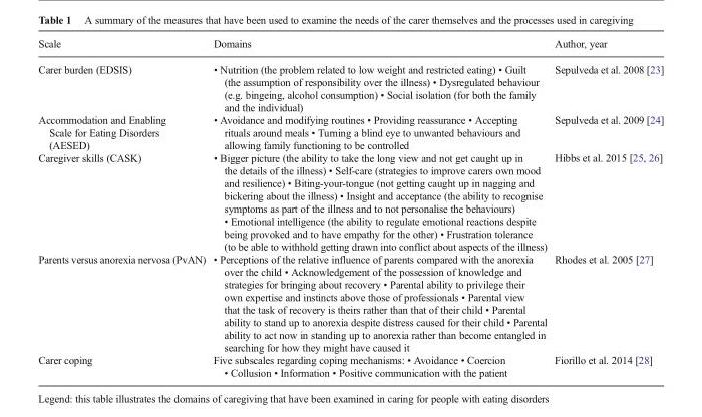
<table><thead><tr><td>Scale</td><td>Domains</td><td>Author, year</td></tr></thead><tbody><tr><td>Carer burden (EDSIS)</td><td>• Nutrition (the problem related to low weight and restricted eating) • Guilt (the assumption of responsibility over the illness) • Dysregulated behaviour (e.g. bingeing, alcohol consumption) • Social isolation (for both the family and the individual)</td><td>Sepulveda et al. 2008 [23]</td></tr><tr><td>Accommodation and Enabling Scale for Eating Disorders (AESED)</td><td>• Avoidance and modifying routines • Providing reassurance • Accepting rituals around meals • Turning a blind eye to unwanted behaviours and allowing family functioning to be controlled</td><td>Sepulveda et al. 2009 [24]</td></tr><tr><td>Caregiver skills (CASK)</td><td>• Bigger picture (the ability to take the long view and not get caught up in the details of the illness) • Self-care (strategies to improve carers own mood and resilience) • Biting-your-tongue (not getting caught up in nagging and bickering about the illness) • Insight and acceptance (the ability to recognise symptoms as part of the illness and to not personalise the behaviours) • Emotional intelligence (the ability to regulate emotional reactions despite being provoked and to have empathy for the other) • Frustration tolerance (to be able to withhold getting drawn into conflict about aspects of the illness)</td><td>Hibbs et al. 2015 [25, 26]</td></tr><tr><td>Parents versus anorexia nervosa (PvAN)</td><td>• Perceptions of the relative influence of parents compared with the anorexia over the child • Acknowledgement of the possession of knowledge and strategies for bringing about recovery • Parental ability to privilege their own expertise and instincts above those of professionals • Parental view that the task of recovery is theirs rather than that of their child • Parental ability to stand up to anorexia despite distress caused for their child • Parental ability to act now in standing up to anorexia rather than become entangled in searching for how they might have caused it</td><td>Rhodes et al. 2005 [27]</td></tr><tr><td>Carer coping</td><td>Five subscales regarding coping mechanisms: • Avoidance • Coercion • Collusion • Information • Positive communication with the patient</td><td>Fiorillo et al. 2014 [28]</td></tr></tbody></table>